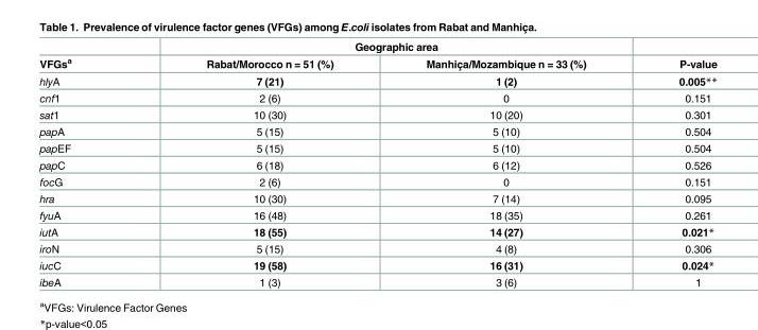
<table><thead><tr><td rowspan="2">VFGs<sup>a</sup></td><td colspan="2">Geographic area</td><td rowspan="2">P-value</td></tr><tr><td>Rabat/Morocco n = 51 (%)</td><td>Manhiça/Mozambique n = 33 (%)</td></tr></thead><tbody><tr><td>hlyA</td><td>7 (21)</td><td>1 (2)</td><td>0.005**</td></tr><tr><td>cnf1</td><td>2 (6)</td><td>0</td><td>0.151</td></tr><tr><td>sat1</td><td>10 (30)</td><td>10 (20)</td><td>0.301</td></tr><tr><td>papA</td><td>5 (15)</td><td>5 (10)</td><td>0.504</td></tr><tr><td>papEF</td><td>5 (15)</td><td>5 (10)</td><td>0.504</td></tr><tr><td>papC</td><td>6 (18)</td><td>6 (12)</td><td>0.526</td></tr><tr><td>focG</td><td>2 (6)</td><td>0</td><td>0.151</td></tr><tr><td>hra</td><td>10 (30)</td><td>7 (14)</td><td>0.095</td></tr><tr><td>fyuA</td><td>16 (48)</td><td>18 (35)</td><td>0.261</td></tr><tr><td>iutA</td><td>18 (55)</td><td>14 (27)</td><td>0.021*</td></tr><tr><td>iroN</td><td>5 (15)</td><td>4 (8)</td><td>0.306</td></tr><tr><td>iucC</td><td>19 (58)</td><td>16 (31)</td><td>0.024*</td></tr><tr><td>ibeA</td><td>1 (3)</td><td>3 (6)</td><td>1</td></tr></tbody></table>